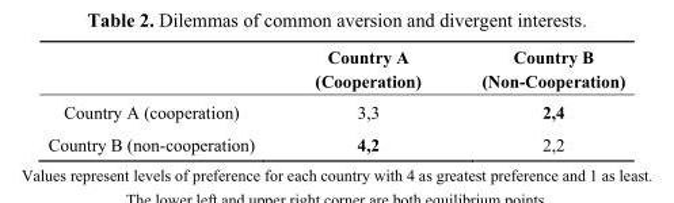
<table><thead><tr><td></td><td>Country A (Cooperation)</td><td>Country B (Non-Cooperation)</td></tr></thead><tbody><tr><td>Country A (cooperation)</td><td>3,3</td><td>2,4</td></tr><tr><td>Country B (non-cooperation)</td><td>4,2</td><td>2,2</td></tr></tbody></table>